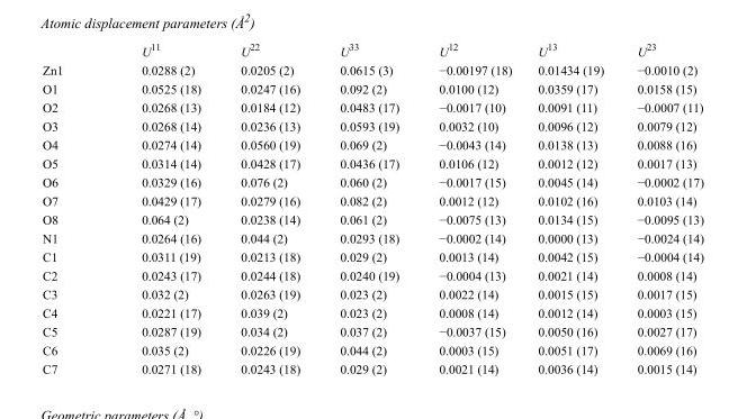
<table><thead><tr><td></td><td>U<sup>11</sup></td><td>U<sup>22</sup></td><td>U<sup>33</sup></td><td>U<sup>12</sup></td><td>U<sup>13</sup></td><td>U<sup>23</sup></td></tr></thead><tbody><tr><td>Zn1</td><td>0.0288 (2)</td><td>0.0205 (2)</td><td>0.0615 (3)</td><td>−0.00197 (18)</td><td>0.01434 (19)</td><td>−0.0010 (2)</td></tr><tr><td>O1</td><td>0.0525 (18)</td><td>0.0247 (16)</td><td>0.092 (2)</td><td>0.0100 (12)</td><td>0.0359 (17)</td><td>0.0158 (15)</td></tr><tr><td>O2</td><td>0.0268 (13)</td><td>0.0184 (12)</td><td>0.0483 (17)</td><td>−0.0017 (10)</td><td>0.0091 (11)</td><td>−0.0007 (11)</td></tr><tr><td>O3</td><td>0.0268 (14)</td><td>0.0236 (13)</td><td>0.0593 (19)</td><td>0.0032 (10)</td><td>0.0096 (12)</td><td>0.0079 (12)</td></tr><tr><td>O4</td><td>0.0274 (14)</td><td>0.0560 (19)</td><td>0.069 (2)</td><td>−0.0043 (14)</td><td>0.0138 (13)</td><td>0.0088 (16)</td></tr><tr><td>O5</td><td>0.0314 (14)</td><td>0.0428 (17)</td><td>0.0436 (17)</td><td>0.0106 (12)</td><td>0.0012 (12)</td><td>0.0017 (13)</td></tr><tr><td>O6</td><td>0.0329 (16)</td><td>0.076 (2)</td><td>0.060 (2)</td><td>−0.0017 (15)</td><td>0.0045 (14)</td><td>−0.0002 (17)</td></tr><tr><td>O7</td><td>0.0429 (17)</td><td>0.0279 (16)</td><td>0.082 (2)</td><td>0.0012 (12)</td><td>0.0102 (16)</td><td>0.0103 (14)</td></tr><tr><td>O8</td><td>0.064 (2)</td><td>0.0238 (14)</td><td>0.061 (2)</td><td>−0.0075 (13)</td><td>0.0134 (15)</td><td>−0.0095 (13)</td></tr><tr><td>N1</td><td>0.0264 (16)</td><td>0.044 (2)</td><td>0.0293 (18)</td><td>−0.0002 (14)</td><td>0.0000 (13)</td><td>−0.0024 (14)</td></tr><tr><td>C1</td><td>0.0311 (19)</td><td>0.0213 (18)</td><td>0.029 (2)</td><td>0.0013 (14)</td><td>0.0042 (15)</td><td>−0.0004 (14)</td></tr><tr><td>C2</td><td>0.0243 (17)</td><td>0.0244 (18)</td><td>0.0240 (19)</td><td>−0.0004 (13)</td><td>0.0021 (14)</td><td>0.0008 (14)</td></tr><tr><td>C3</td><td>0.032 (2)</td><td>0.0263 (19)</td><td>0.023 (2)</td><td>0.0022 (14)</td><td>0.0015 (15)</td><td>0.0017 (15)</td></tr><tr><td>C4</td><td>0.0221 (17)</td><td>0.039 (2)</td><td>0.023 (2)</td><td>0.0008 (14)</td><td>0.0012 (14)</td><td>0.0003 (15)</td></tr><tr><td>C5</td><td>0.0287 (19)</td><td>0.034 (2)</td><td>0.037 (2)</td><td>−0.0037 (15)</td><td>0.0050 (16)</td><td>0.0027 (17)</td></tr><tr><td>C6</td><td>0.035 (2)</td><td>0.0226 (19)</td><td>0.044 (2)</td><td>0.0003 (15)</td><td>0.0051 (17)</td><td>0.0069 (16)</td></tr><tr><td>C7</td><td>0.0271 (18)</td><td>0.0243 (18)</td><td>0.029 (2)</td><td>0.0021 (14)</td><td>0.0036 (14)</td><td>0.0015 (14)</td></tr></tbody></table>